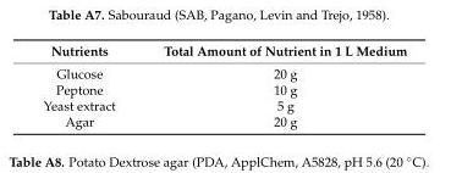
<table><thead><tr><td>Nutrients</td><td>Total Amount of Nutrient in 1 L Medium</td></tr></thead><tbody><tr><td>Glucose</td><td>20 g</td></tr><tr><td>Peptone</td><td>10 g</td></tr><tr><td>Yeast extract</td><td>5 g</td></tr><tr><td>Agar</td><td>20 g</td></tr></tbody></table>